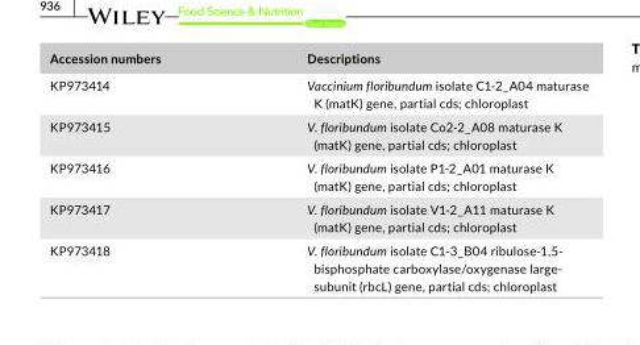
<table><thead><tr><td>Accession numbers</td><td>Descriptions</td></tr></thead><tbody><tr><td>KP973414</td><td>Vaccinium floribundum isolate C1- 2_A04 maturase K (matK) gene, partial cds; chloroplast</td></tr><tr><td>KP973415</td><td>V. floribundum isolate Co2- 2_A08 maturase K (matK) gene, partial cds; chloroplast</td></tr><tr><td>KP973416</td><td>V. floribundum isolate P1- 2_A01 maturase K (matK) gene, partial cds; chloroplast</td></tr><tr><td>KP973417</td><td>V. floribundum isolate V1- 2_A11 maturase K (matK) gene, partial cds; chloroplast</td></tr><tr><td>KP973418</td><td>V. floribundum isolate C1- 3_B04 ribulose- 1,5- bisphosphate carboxylase/oxygenase large- subunit (rbcL) gene, partial cds; chloroplast</td></tr></tbody></table>